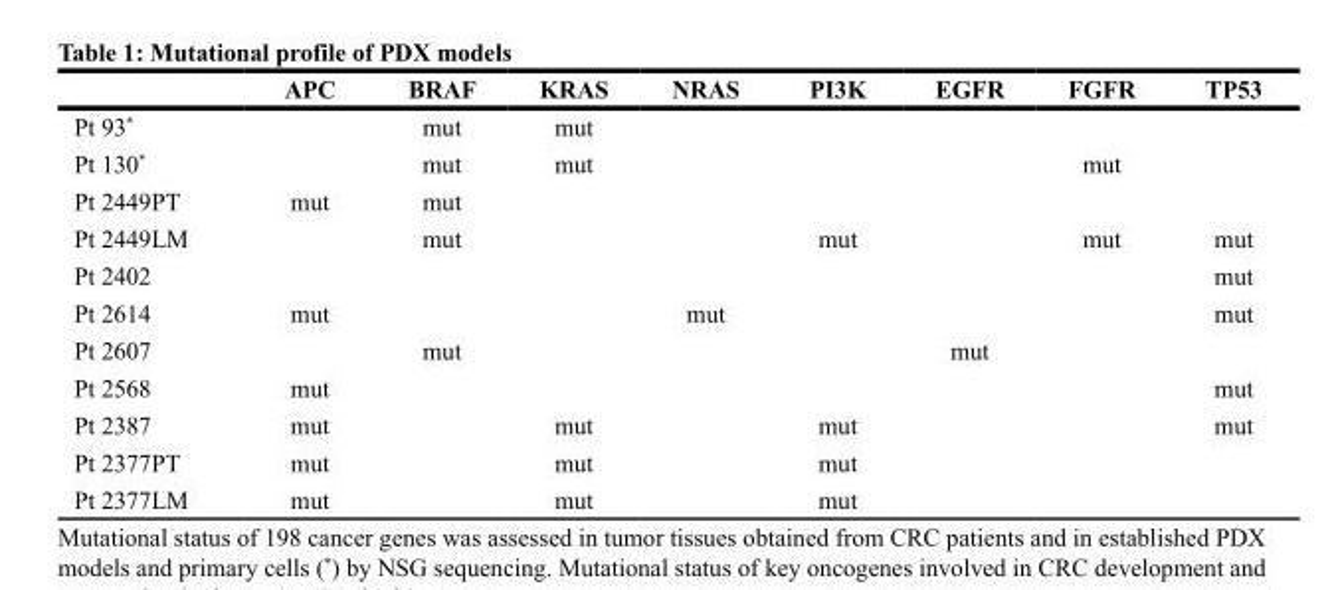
<table><thead><tr><td></td><td>APC</td><td>BRAF</td><td>KRAS</td><td>NRAS</td><td>PI3K</td><td>EGFR</td><td>FGFR</td><td>TP53</td></tr></thead><tbody><tr><td>Pt 93*</td><td></td><td>mut</td><td>mut</td><td></td><td></td><td></td><td></td><td></td></tr><tr><td>Pt 130*</td><td></td><td>mut</td><td>mut</td><td></td><td></td><td></td><td>mut</td><td></td></tr><tr><td>Pt 2449PT</td><td>mut</td><td>mut</td><td></td><td></td><td></td><td></td><td></td><td></td></tr><tr><td>Pt 2449LM</td><td></td><td>mut</td><td></td><td></td><td>mut</td><td></td><td>mut</td><td>mut</td></tr><tr><td>Pt 2402</td><td></td><td></td><td></td><td></td><td></td><td></td><td></td><td>mut</td></tr><tr><td>Pt 2614</td><td>mut</td><td></td><td></td><td>mut</td><td></td><td></td><td></td><td>mut</td></tr><tr><td>Pt 2607</td><td></td><td>mut</td><td></td><td></td><td></td><td>mut</td><td></td><td></td></tr><tr><td>Pt 2568</td><td>mut</td><td></td><td></td><td></td><td></td><td></td><td></td><td>mut</td></tr><tr><td>Pt 2387</td><td>mut</td><td></td><td>mut</td><td></td><td>mut</td><td></td><td></td><td>mut</td></tr><tr><td>Pt 2377PT</td><td>mut</td><td></td><td>mut</td><td></td><td>mut</td><td></td><td></td><td></td></tr><tr><td>Pt 2377LM</td><td>mut</td><td></td><td>mut</td><td></td><td>mut</td><td></td><td></td><td></td></tr></tbody></table>